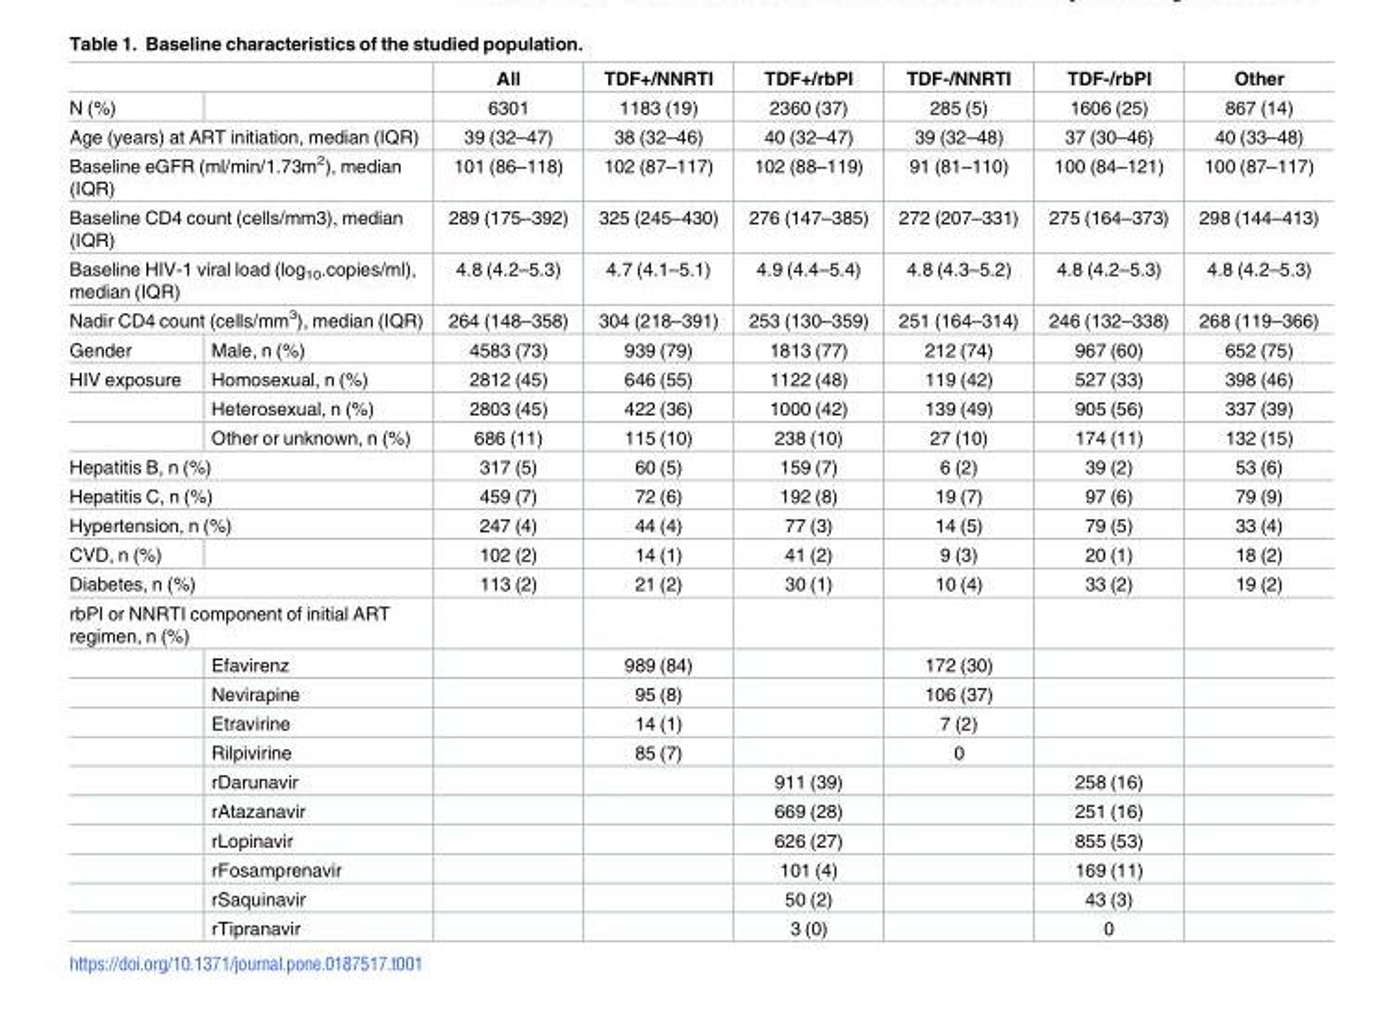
<table><thead><tr><td></td><td></td><td>All</td><td>TDF+/NNRTI</td><td>TDF+/rbPI</td><td>TDF-/NNRTI</td><td>TDF-/rbPI</td><td>Other</td></tr></thead><tbody><tr><td>N (%)</td><td></td><td>6301</td><td>1183 (19)</td><td>2360 (37)</td><td>285 (5)</td><td>1606 (25)</td><td>867 (14)</td></tr><tr><td colspan="2">Age (years) at ART initiation, median (IQR)</td><td>39 (32–47)</td><td>38 (32–46)</td><td>40 (32–47)</td><td>39 (32–48)</td><td>37 (30–46)</td><td>40 (33–48)</td></tr><tr><td colspan="2">Baseline eGFR (ml/min/1.73m<sup>2</sup>), median (IQR)</td><td>101 (86–118)</td><td>102 (87–117)</td><td>102 (88–119)</td><td>91 (81–110)</td><td>100 (84–121)</td><td>100 (87–117)</td></tr><tr><td colspan="2">Baseline CD4 count (cells/mm3), median (IQR)</td><td>289 (175–392)</td><td>325 (245–430)</td><td>276 (147–385)</td><td>272 (207–331)</td><td>275 (164–373)</td><td>298 (144–413)</td></tr><tr><td colspan="2">Baseline HIV-1 viral load (log<sub>10</sub>.copies/ml), median (IQR)</td><td>4.8 (4.2–5.3)</td><td>4.7 (4.1–5.1)</td><td>4.9 (4.4–5.4)</td><td>4.8 (4.3–5.2)</td><td>4.8 (4.2–5.3)</td><td>4.8 (4.2–5.3)</td></tr><tr><td colspan="2">Nadir CD4 count (cells/mm<sup>3</sup>), median (IQR)</td><td>264 (148–358)</td><td>304 (218–391)</td><td>253 (130–359)</td><td>251 (164–314)</td><td>246 (132–338)</td><td>268 (119–366)</td></tr><tr><td>Gender</td><td>Male, n (%)</td><td>4583 (73)</td><td>939 (79)</td><td>1813 (77)</td><td>212 (74)</td><td>967 (60)</td><td>652 (75)</td></tr><tr><td rowspan="3">HIV exposure</td><td>Homosexual, n (%)</td><td>2812 (45)</td><td>646 (55)</td><td>1122 (48)</td><td>119 (42)</td><td>527 (33)</td><td>398 (46)</td></tr><tr><td>Heterosexual, n (%)</td><td>2803 (45)</td><td>422 (36)</td><td>1000 (42)</td><td>139 (49)</td><td>905 (56)</td><td>337 (39)</td></tr><tr><td>Other or unknown, n (%)</td><td>686 (11)</td><td>115 (10)</td><td>238 (10)</td><td>27 (10)</td><td>174 (11)</td><td>132 (15)</td></tr><tr><td colspan="2">Hepatitis B, n (%)</td><td>317 (5)</td><td>60 (5)</td><td>159 (7)</td><td>6 (2)</td><td>39 (2)</td><td>53 (6)</td></tr><tr><td colspan="2">Hepatitis C, n (%)</td><td>459 (7)</td><td>72 (6)</td><td>192 (8)</td><td>19 (7)</td><td>97 (6)</td><td>79 (9)</td></tr><tr><td colspan="2">Hypertension, n (%)</td><td>247 (4)</td><td>44 (4)</td><td>77 (3)</td><td>14 (5)</td><td>79 (5)</td><td>33 (4)</td></tr><tr><td>CVD, n (%)</td><td></td><td>102 (2)</td><td>14 (1)</td><td>41 (2)</td><td>9 (3)</td><td>20 (1)</td><td>18 (2)</td></tr><tr><td colspan="2">Diabetes, n (%)</td><td>113 (2)</td><td>21 (2)</td><td>30 (1)</td><td>10 (4)</td><td>33 (2)</td><td>19 (2)</td></tr><tr><td colspan="8">rbPI or NNRTI component of initial ART regimen, n (%)</td></tr><tr><td></td><td>Efavirenz</td><td></td><td>989 (84)</td><td></td><td>172 (30)</td><td></td><td></td></tr><tr><td></td><td>Nevirapine</td><td></td><td>95 (8)</td><td></td><td>106 (37)</td><td></td><td></td></tr><tr><td></td><td>Etravirine</td><td></td><td>14 (1)</td><td></td><td>7 (2)</td><td></td><td></td></tr><tr><td></td><td>Rilpivirine</td><td></td><td>85 (7)</td><td></td><td>0</td><td></td><td></td></tr><tr><td></td><td>rDarunavir</td><td></td><td></td><td>911 (39)</td><td></td><td>258 (16)</td><td></td></tr><tr><td></td><td>rAtazanavir</td><td></td><td></td><td>669 (28)</td><td></td><td>251 (16)</td><td></td></tr><tr><td></td><td>rLopinavir</td><td></td><td></td><td>626 (27)</td><td></td><td>855 (53)</td><td></td></tr><tr><td></td><td>rFosamprenavir</td><td></td><td></td><td>101 (4)</td><td></td><td>169 (11)</td><td></td></tr><tr><td></td><td>rSaquinavir</td><td></td><td></td><td>50 (2)</td><td></td><td>43 (3)</td><td></td></tr><tr><td></td><td>rTipranavir</td><td></td><td></td><td>3 (0)</td><td></td><td>0</td><td></td></tr></tbody></table>